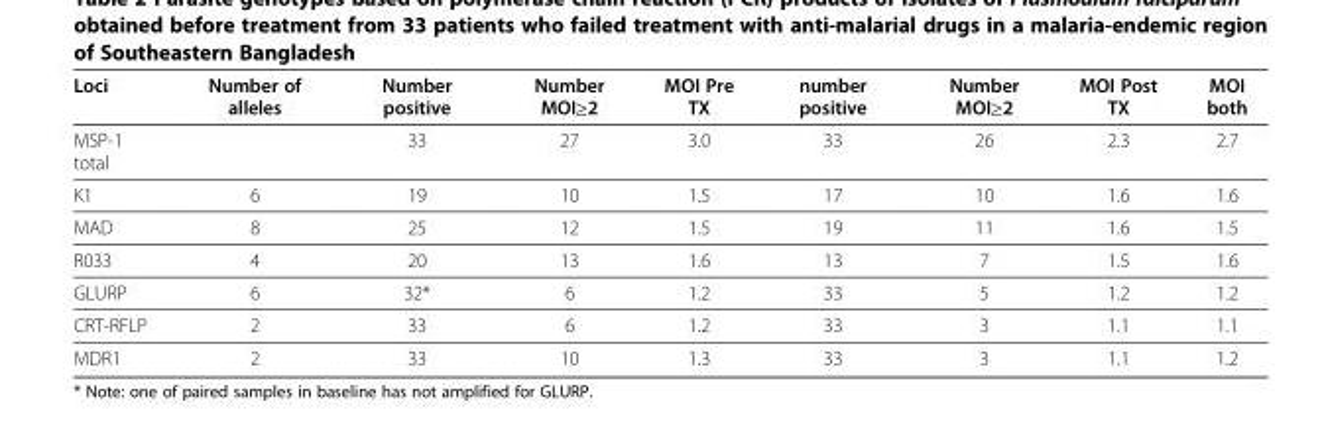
<table><thead><tr><td>Loci</td><td>Number of alleles</td><td>Number positive</td><td>Number MOI≥2</td><td>MOI Pre TX</td><td>number positive</td><td>Number MOI≥2</td><td>MOI Post TX</td><td>MOI both</td></tr></thead><tbody><tr><td>MSP-1 total</td><td></td><td>33</td><td>27</td><td>3.0</td><td>33</td><td>26</td><td>2.3</td><td>2.7</td></tr><tr><td>K1</td><td>6</td><td>19</td><td>10</td><td>1.5</td><td>17</td><td>10</td><td>1.6</td><td>1.6</td></tr><tr><td>MAD</td><td>8</td><td>25</td><td>12</td><td>1.5</td><td>19</td><td>11</td><td>1.6</td><td>1.5</td></tr><tr><td>R033</td><td>4</td><td>20</td><td>13</td><td>1.6</td><td>13</td><td>7</td><td>1.5</td><td>1.6</td></tr><tr><td>GLURP</td><td>6</td><td>32*</td><td>6</td><td>1.2</td><td>33</td><td>5</td><td>1.2</td><td>1.2</td></tr><tr><td>CRT-RFLP</td><td>2</td><td>33</td><td>6</td><td>1.2</td><td>33</td><td>3</td><td>1.1</td><td>1.1</td></tr><tr><td>MDR1</td><td>2</td><td>33</td><td>10</td><td>1.3</td><td>33</td><td>3</td><td>1.1</td><td>1.2</td></tr></tbody></table>